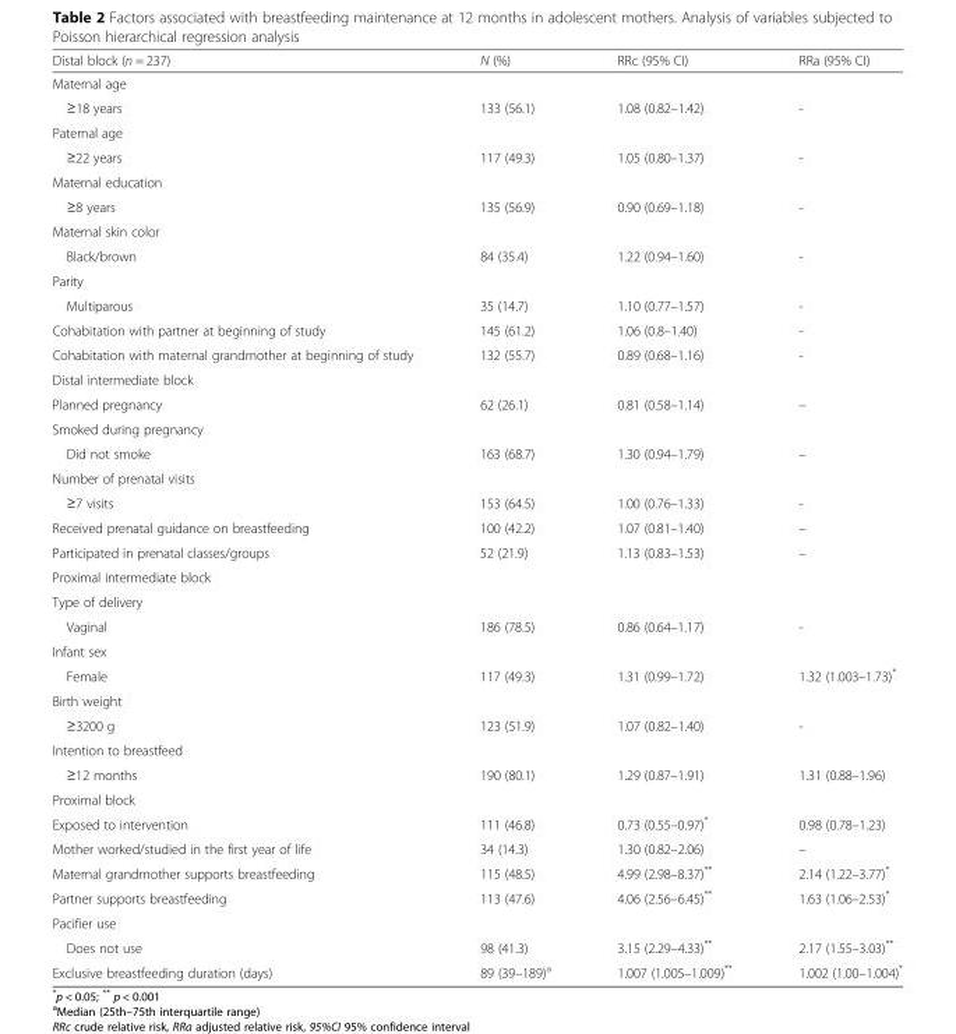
<table><thead><tr><td>Distal block (n = 237)</td><td>N (%)</td><td>RRc (95% CI)</td><td>RRa (95% CI)</td></tr></thead><tbody><tr><td colspan="4">Maternal age</td></tr><tr><td>≥18 years</td><td>133 (56.1)</td><td>1.08 (0.82–1.42)</td><td>-</td></tr><tr><td colspan="4">Paternal age</td></tr><tr><td>≥22 years</td><td>117 (49.3)</td><td>1.05 (0.80–1.37)</td><td>-</td></tr><tr><td colspan="4">Maternal education</td></tr><tr><td>≥8 years</td><td>135 (56.9)</td><td>0.90 (0.69–1.18)</td><td>-</td></tr><tr><td colspan="4">Maternal skin color</td></tr><tr><td>Black/brown</td><td>84 (35.4)</td><td>1.22 (0.94–1.60)</td><td>-</td></tr><tr><td colspan="4">Parity</td></tr><tr><td>Multiparous</td><td>35 (14.7)</td><td>1.10 (0.77–1.57)</td><td>-</td></tr><tr><td>Cohabitation with partner at beginning of study</td><td>145 (61.2)</td><td>1.06 (0.8–1.40)</td><td>-</td></tr><tr><td>Cohabitation with maternal grandmother at beginning of study</td><td>132 (55.7)</td><td>0.89 (0.68–1.16)</td><td>-</td></tr><tr><td colspan="4">Distal intermediate block</td></tr><tr><td>Planned pregnancy</td><td>62 (26.1)</td><td>0.81 (0.58–1.14)</td><td>–</td></tr><tr><td colspan="4">Smoked during pregnancy</td></tr><tr><td>Did not smoke</td><td>163 (68.7)</td><td>1.30 (0.94–1.79)</td><td>–</td></tr><tr><td colspan="4">Number of prenatal visits</td></tr><tr><td>≥7 visits</td><td>153 (64.5)</td><td>1.00 (0.76–1.33)</td><td>-</td></tr><tr><td>Received prenatal guidance on breastfeeding</td><td>100 (42.2)</td><td>1.07 (0.81–1.40)</td><td>–</td></tr><tr><td>Participated in prenatal classes/groups</td><td>52 (21.9)</td><td>1.13 (0.83–1.53)</td><td>–</td></tr><tr><td colspan="4">Proximal intermediate block</td></tr><tr><td colspan="4">Type of delivery</td></tr><tr><td>Vaginal</td><td>186 (78.5)</td><td>0.86 (0.64–1.17)</td><td>-</td></tr><tr><td colspan="4">Infant sex</td></tr><tr><td>Female</td><td>117 (49.3)</td><td>1.31 (0.99–1.72)</td><td>1.32 (1.003–1.73)*</td></tr><tr><td colspan="4">Birth weight</td></tr><tr><td>≥3200 g</td><td>123 (51.9)</td><td>1.07 (0.82–1.40)</td><td>-</td></tr><tr><td colspan="4">Intention to breastfeed</td></tr><tr><td>≥12 months</td><td>190 (80.1)</td><td>1.29 (0.87–1.91)</td><td>1.31 (0.88–1.96)</td></tr><tr><td colspan="4">Proximal block</td></tr><tr><td>Exposed to intervention</td><td>111 (46.8)</td><td>0.73 (0.55–0.97)*</td><td>0.98 (0.78–1.23)</td></tr><tr><td>Mother worked/studied in the first year of life</td><td>34 (14.3)</td><td>1.30 (0.82–2.06)</td><td>–</td></tr><tr><td>Maternal grandmother supports breastfeeding</td><td>115 (48.5)</td><td>4.99 (2.98–8.37)**</td><td>2.14 (1.22–3.77)*</td></tr><tr><td>Partner supports breastfeeding</td><td>113 (47.6)</td><td>4.06 (2.56–6.45)**</td><td>1.63 (1.06–2.53)*</td></tr><tr><td colspan="4">Pacifier use</td></tr><tr><td>Does not use</td><td>98 (41.3)</td><td>3.15 (2.29–4.33)**</td><td>2.17 (1.55–3.03)**</td></tr><tr><td>Exclusive breastfeeding duration (days)</td><td>89 (39–189)<sup>a</sup></td><td>1.007 (1.005–1.009)**</td><td>1.002 (1.00–1.004)*</td></tr></tbody></table>